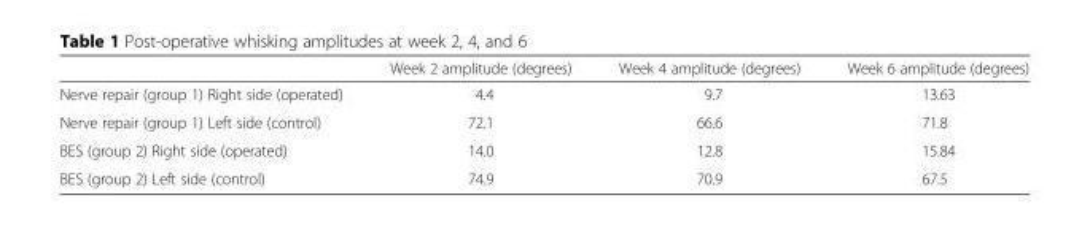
<table><thead><tr><td></td><td>Week 2 amplitude (degrees)</td><td>Week 4 amplitude (degrees)</td><td>Week 6 amplitude (degrees)</td></tr></thead><tbody><tr><td>Nerve repair (group 1) Right side (operated)</td><td>4.4</td><td>9.7</td><td>13.63</td></tr><tr><td>Nerve repair (group 1) Left side (control)</td><td>72.1</td><td>66.6</td><td>71.8</td></tr><tr><td>BES (group 2) Right side (operated)</td><td>14.0</td><td>12.8</td><td>15.84</td></tr><tr><td>BES (group 2) Left side (control)</td><td>74.9</td><td>70.9</td><td>67.5</td></tr></tbody></table>